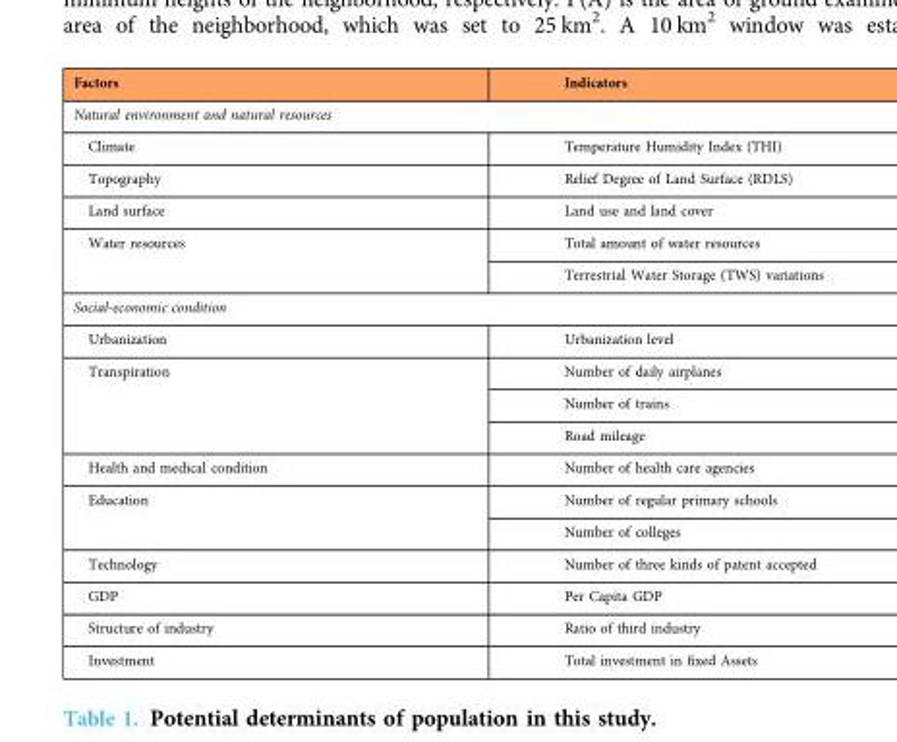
<table><thead><tr><td>Factors</td><td>Indicators</td></tr></thead><tbody><tr><td colspan="2">Natural environment and natural resources</td></tr><tr><td>Climate</td><td>Temperature Humidity Index (THI)</td></tr><tr><td>Topography</td><td>Relief Degree of Land Surface (RDLS)</td></tr><tr><td>Land surface</td><td>Land use and land cover</td></tr><tr><td rowspan="2">Water resources</td><td>Total amount of water resources</td></tr><tr><td>Terrestrial Water Storage (TWS) variations</td></tr><tr><td colspan="2">Social-economic condition</td></tr><tr><td>Urbanization</td><td>Urbanization level</td></tr><tr><td rowspan="3">Transpiration</td><td>Number of daily airplanes</td></tr><tr><td>Number of trains</td></tr><tr><td>Road mileage</td></tr><tr><td>Health and medical condition</td><td>Number of health care agencies</td></tr><tr><td rowspan="2">Education</td><td>Number of regular primary schools</td></tr><tr><td>Number of colleges</td></tr><tr><td>Technology</td><td>Number of three kinds of patent accepted</td></tr><tr><td>GDP</td><td>Per Capita GDP</td></tr><tr><td>Structure of industry</td><td>Ratio of third industry</td></tr><tr><td>Investment</td><td>Total investment in fixed Assets</td></tr></tbody></table>